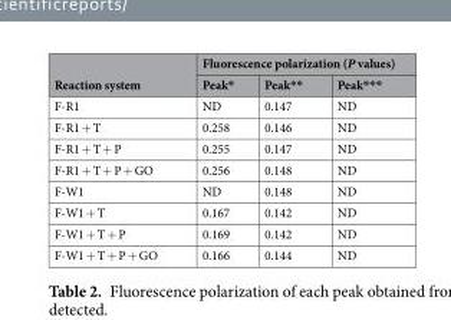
<table><thead><tr><td rowspan="2">Reaction system</td><td colspan="3">Fluorescence polarization (P values)</td></tr><tr><td>Peak*</td><td>Peak**</td><td>Peak***</td></tr></thead><tbody><tr><td>F-R1</td><td>ND</td><td>0.147</td><td>ND</td></tr><tr><td>F-R1 + T</td><td>0.258</td><td>0.146</td><td>ND</td></tr><tr><td>F-R1 + T + P</td><td>0.255</td><td>0.147</td><td>ND</td></tr><tr><td>F-R1 + T + P + GO</td><td>0.256</td><td>0.148</td><td>ND</td></tr><tr><td>F-W1</td><td>ND</td><td>0.148</td><td>ND</td></tr><tr><td>F-W1 + T</td><td>0.167</td><td>0.142</td><td>ND</td></tr><tr><td>F-W1 + T + P</td><td>0.169</td><td>0.142</td><td>ND</td></tr><tr><td>F-W1 + T + P + GO</td><td>0.166</td><td>0.144</td><td>ND</td></tr></tbody></table>